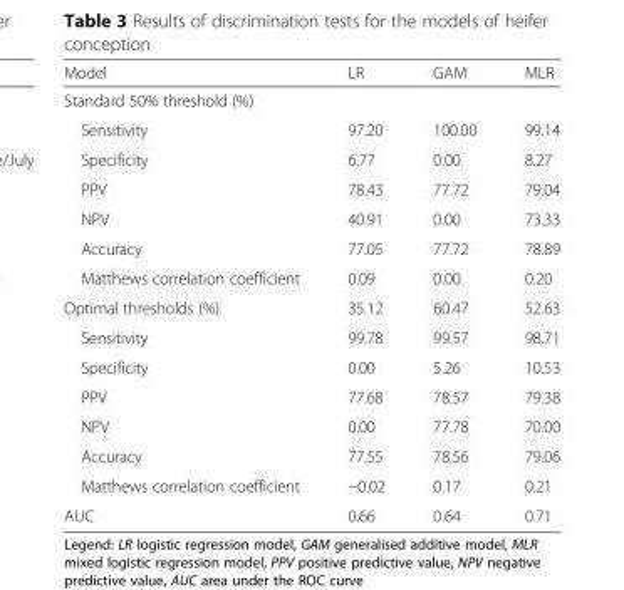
<table><thead><tr><td>Model</td><td>LR</td><td>GAM</td><td>MLR</td></tr></thead><tbody><tr><td colspan="4">Standard 50% threshold (%)</td></tr><tr><td>Sensitivity</td><td>97.20</td><td>100.00</td><td>99.14</td></tr><tr><td>Specificity</td><td>6.77</td><td>0.00</td><td>8.27</td></tr><tr><td>PPV</td><td>78.43</td><td>77.72</td><td>79.04</td></tr><tr><td>NPV</td><td>40.91</td><td>0.00</td><td>73.33</td></tr><tr><td>Accuracy</td><td>77.05</td><td>77.72</td><td>78.89</td></tr><tr><td>Matthews correlation coefficient</td><td>0.09</td><td>0.00</td><td>0.20</td></tr><tr><td>Optimal thresholds (%)</td><td>35.12</td><td>60.47</td><td>52.63</td></tr><tr><td>Sensitivity</td><td>99.78</td><td>99.57</td><td>98.71</td></tr><tr><td>Specificity</td><td>0.00</td><td>5.26</td><td>10.53</td></tr><tr><td>PPV</td><td>77.68</td><td>78.57</td><td>79.38</td></tr><tr><td>NPV</td><td>0.00</td><td>77.78</td><td>70.00</td></tr><tr><td>Accuracy</td><td>77.55</td><td>78.56</td><td>79.06</td></tr><tr><td>Matthews correlation coefficient</td><td>−0.02</td><td>0.17</td><td>0.21</td></tr><tr><td>AUC</td><td>0.66</td><td>0.64</td><td>0.71</td></tr></tbody></table>